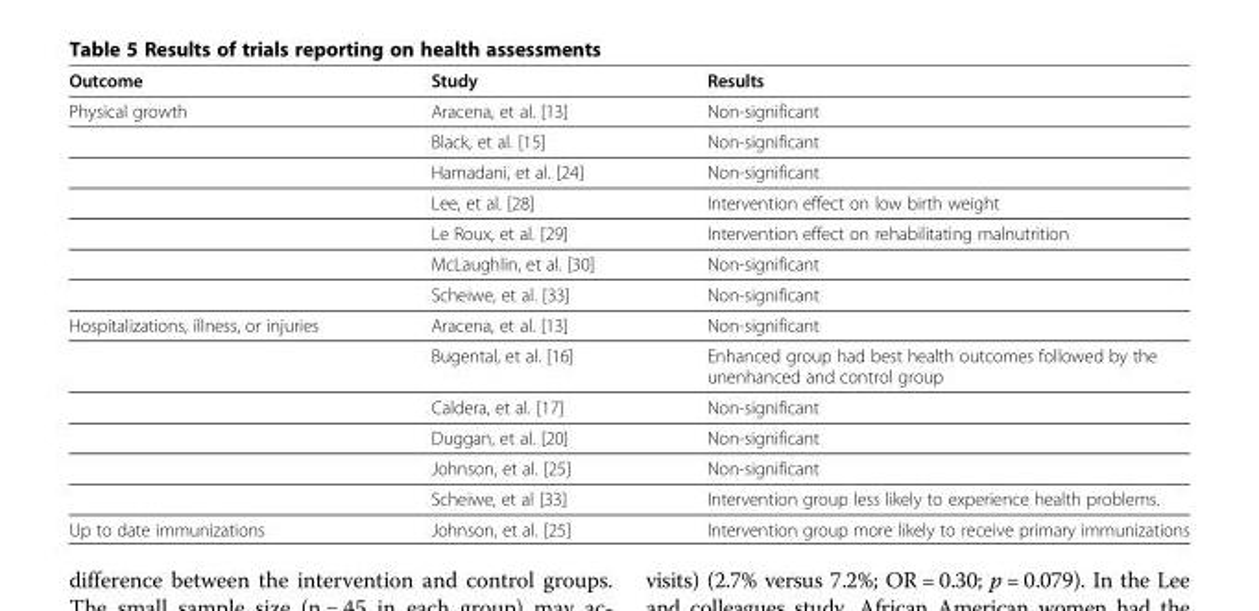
<table><thead><tr><td>Outcome</td><td>Study</td><td>Results</td></tr></thead><tbody><tr><td rowspan="7">Physical growth</td><td>Aracena, et al. [13]</td><td>Non-significant</td></tr><tr><td>Black, et al. [15]</td><td>Non-significant</td></tr><tr><td>Hamadani, et al. [24]</td><td>Non-significant</td></tr><tr><td>Lee, et al. [28]</td><td>Intervention effect on low birth weight</td></tr><tr><td>Le Roux, et al. [29]</td><td>Intervention effect on rehabilitating malnutrition</td></tr><tr><td>McLaughlin, et al. [30]</td><td>Non-significant</td></tr><tr><td>Scheiwe, et al. [33]</td><td>Non-significant</td></tr><tr><td rowspan="6">Hospitalizations, illness, or injuries</td><td>Aracena, et al. [13]</td><td>Non-significant</td></tr><tr><td>Bugental, et al. [16]</td><td>Enhanced group had best health outcomes followed by the unenhanced and control group</td></tr><tr><td>Caldera, et al. [17]</td><td>Non-significant</td></tr><tr><td>Duggan, et al. [20]</td><td>Non-significant</td></tr><tr><td>Johnson, et al. [25]</td><td>Non-significant</td></tr><tr><td>Scheiwe, et al [33]</td><td>Intervention group less likely to experience health problems.</td></tr><tr><td>Up to date immunizations</td><td>Johnson, et al. [25]</td><td>Intervention group more likely to receive primary immunizations</td></tr></tbody></table>